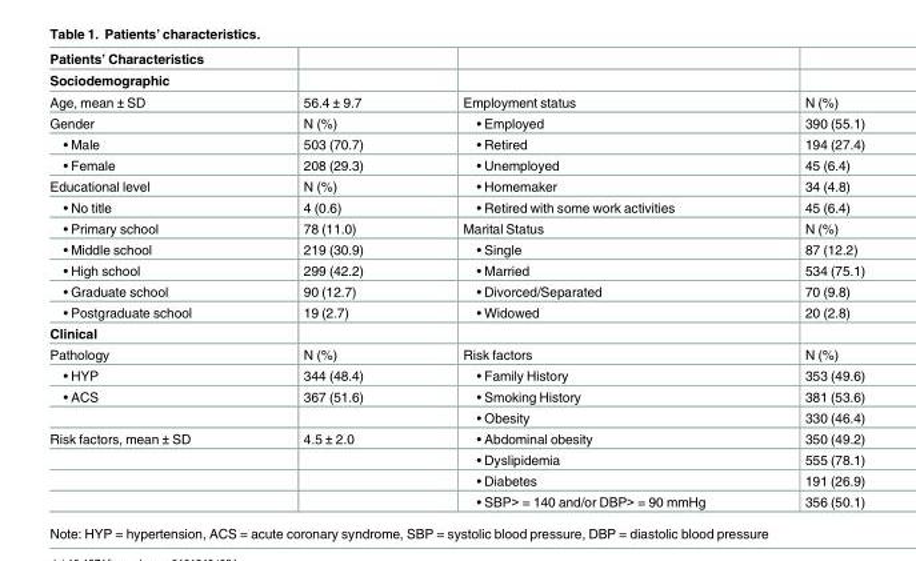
<table><thead><tr><td rowspan="2">Patients’ Characteristics Sociodemographic</td><td rowspan="2"></td><td rowspan="2"></td><td rowspan="2"></td></tr><tr></tr></thead><tbody><tr><td>Age, mean ± SD</td><td>56.4 ± 9.7</td><td>Employment status</td><td>N (%)</td></tr><tr><td>Gender</td><td>N (%)</td><td>• Employed</td><td>390 (55.1)</td></tr><tr><td>• Male</td><td>503 (70.7)</td><td>• Retired</td><td>194 (27.4)</td></tr><tr><td>• Female</td><td>208 (29.3)</td><td>• Unemployed</td><td>45 (6.4)</td></tr><tr><td>Educational level</td><td>N (%)</td><td>• Homemaker</td><td>34 (4.8)</td></tr><tr><td>• No title</td><td>4 (0.6)</td><td>• Retired with some work activities</td><td>45 (6.4)</td></tr><tr><td>• Primary school</td><td>78 (11.0)</td><td>Marital Status</td><td>N (%)</td></tr><tr><td>• Middle school</td><td>219 (30.9)</td><td>• Single</td><td>87 (12.2)</td></tr><tr><td>• High school</td><td>299 (42.2)</td><td>• Married</td><td>534 (75.1)</td></tr><tr><td>• Graduate school</td><td>90 (12.7)</td><td>• Divorced/Separated</td><td>70 (9.8)</td></tr><tr><td>• Postgraduate school</td><td>19 (2.7)</td><td>• Widowed</td><td>20 (2.8)</td></tr><tr><td colspan="4">Clinical</td></tr><tr><td>Pathology</td><td>N (%)</td><td>Risk factors</td><td>N (%)</td></tr><tr><td>• HYP</td><td>344 (48.4)</td><td>• Family History</td><td>353 (49.6)</td></tr><tr><td rowspan="2">• ACS</td><td>367 (51.6)</td><td>• Smoking History</td><td>381 (53.6)</td></tr><tr><td></td><td>• Obesity</td><td>330 (46.4)</td></tr><tr><td rowspan="4">Risk factors, mean ± SD</td><td>4.5 ± 2.0</td><td>• Abdominal obesity</td><td>350 (49.2)</td></tr><tr><td></td><td>• Dyslipidemia</td><td>555 (78.1)</td></tr><tr><td></td><td>• Diabetes</td><td>191 (26.9)</td></tr><tr><td></td><td>• SBP&gt; = 140 and/or DBP&gt; = 90 mmHg</td><td>356 (50.1)</td></tr></tbody></table>